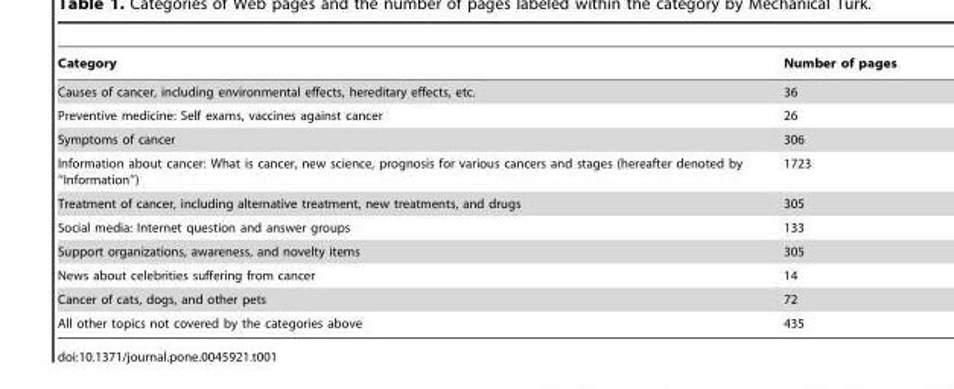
<table><thead><tr><td>Category</td><td>Number of pages</td></tr></thead><tbody><tr><td>Causes of cancer, including environmental effects, hereditary effects, etc.</td><td>36</td></tr><tr><td>Preventive medicine: Self exams, vaccines against cancer</td><td>26</td></tr><tr><td>Symptoms of cancer</td><td>306</td></tr><tr><td>Information about cancer: What is cancer, new science, prognosis for various cancers and stages (hereafter denoted by ‘‘Information’’)</td><td>1723</td></tr><tr><td>Treatment of cancer, including alternative treatment, new treatments, and drugs</td><td>305</td></tr><tr><td>Social media: Internet question and answer groups</td><td>133</td></tr><tr><td>Support organizations, awareness, and novelty items</td><td>305</td></tr><tr><td>News about celebrities suffering from cancer</td><td>14</td></tr><tr><td>Cancer of cats, dogs, and other pets</td><td>72</td></tr><tr><td>All other topics not covered by the categories above</td><td>435</td></tr></tbody></table>